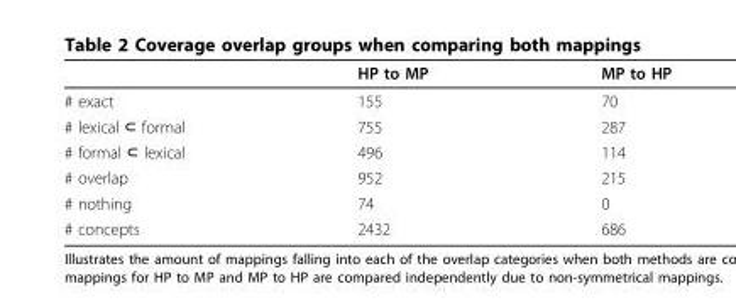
<table><thead><tr><td></td><td>HP to MP</td><td>MP to HP</td></tr></thead><tbody><tr><td># exact</td><td>155</td><td>70</td></tr><tr><td># lexical ⊂ formal</td><td>755</td><td>287</td></tr><tr><td># formal ⊂ lexical</td><td>496</td><td>114</td></tr><tr><td># overlap</td><td>952</td><td>215</td></tr><tr><td># nothing</td><td>74</td><td>0</td></tr><tr><td># concepts</td><td>2432</td><td>686</td></tr></tbody></table>